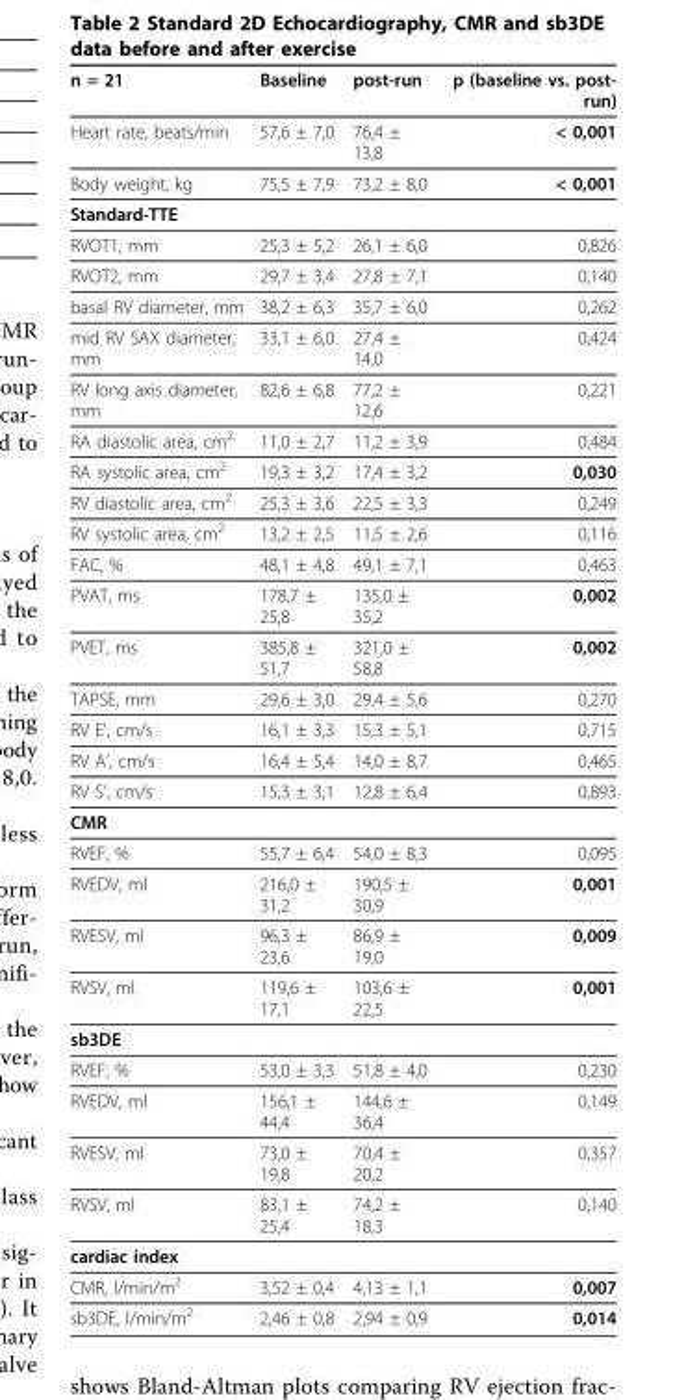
<table><thead><tr><td>n = 21</td><td>Baseline</td><td>post-run</td><td>p (baseline vs. post- run)</td></tr></thead><tbody><tr><td>Heart rate, beats/min</td><td>57,6 ± 7,0</td><td>76,4 ± 13,8</td><td>&lt; 0,001</td></tr><tr><td>Body weight, kg</td><td>75,5 ± 7,9</td><td>73,2 ± 8,0</td><td>&lt; 0,001</td></tr><tr><td colspan="4">Standard-TTE</td></tr><tr><td>RVOT1, mm</td><td>25,3 ± 5,2</td><td>26,1 ± 6,0</td><td>0,826</td></tr><tr><td>RVOT2, mm</td><td>29,7 ± 3,4</td><td>27,8 ± 7,1</td><td>0,140</td></tr><tr><td>basal RV diameter, mm</td><td>38,2 ± 6,3</td><td>35,7 ± 6,0</td><td>0,262</td></tr><tr><td>mid RV SAX diameter, mm</td><td>33,1 ± 6,0</td><td>27,4 ± 14,0</td><td>0,424</td></tr><tr><td>RV long axis diameter, mm</td><td>82,6 ± 6,8</td><td>77,2 ± 12,6</td><td>0,221</td></tr><tr><td>RA diastolic area, cm<sup>2</sup></td><td>11,0 ± 2,7</td><td>11,2 ± 3,9</td><td>0,484</td></tr><tr><td>RA systolic area, cm<sup>2</sup></td><td>19,3 ± 3,2</td><td>17,4 ± 3,2</td><td>0,030</td></tr><tr><td>RV diastolic area, cm<sup>2</sup></td><td>25,3 ± 3,6</td><td>22,5 ± 3,3</td><td>0,249</td></tr><tr><td>RV systolic area, cm<sup>2</sup></td><td>13,2 ± 2,5</td><td>11,5 ± 2,6</td><td>0,116</td></tr><tr><td>FAC, %</td><td>48,1 ± 4,8</td><td>49,1 ± 7,1</td><td>0,463</td></tr><tr><td>PVAT, ms</td><td>178,7 ± 25,8</td><td>135,0 ± 35,2</td><td>0,002</td></tr><tr><td>PVET, ms</td><td>385,8 ± 51,7</td><td>321,0 ± 58,8</td><td>0,002</td></tr><tr><td>TAPSE, mm</td><td>29,6 ± 3,0</td><td>29,4 ± 5,6</td><td>0,270</td></tr><tr><td>RV E’, cm/s</td><td>16,1 ± 3,3</td><td>15,3 ± 5,1</td><td>0,715</td></tr><tr><td>RV A’, cm/s</td><td>16,4 ± 5,4</td><td>14,0 ± 8,7</td><td>0,465</td></tr><tr><td>RV S’, cm/s</td><td>15,3 ± 3,1</td><td>12,8 ± 6,4</td><td>0,893</td></tr><tr><td colspan="4">CMR</td></tr><tr><td>RVEF, %</td><td>55,7 ± 6,4</td><td>54,0 ± 8,3</td><td>0,095</td></tr><tr><td>RVEDV, ml</td><td>216,0 ± 31,2</td><td>190,5 ± 30,9</td><td>0,001</td></tr><tr><td>RVESV, ml</td><td>96,3 ± 23,6</td><td>86,9 ± 19,0</td><td>0,009</td></tr><tr><td>RVSV, ml</td><td>119,6 ± 17,1</td><td>103,6 ± 22,5</td><td>0,001</td></tr><tr><td colspan="4">sb3DE</td></tr><tr><td>RVEF, %</td><td>53,0 ± 3,3</td><td>51,8 ± 4,0</td><td>0,230</td></tr><tr><td>RVEDV, ml</td><td>156,1 ± 44,4</td><td>144,6 ± 36,4</td><td>0,149</td></tr><tr><td>RVESV, ml</td><td>73,0 ± 19,8</td><td>70,4 ± 20,2</td><td>0,357</td></tr><tr><td>RVSV, ml</td><td>83,1 ± 25,4</td><td>74,2 ± 18,3</td><td>0,140</td></tr><tr><td colspan="4">cardiac index</td></tr><tr><td>CMR, l/min/m<sup>2</sup></td><td>3,52 ± 0,4</td><td>4,13 ± 1,1</td><td>0,007</td></tr><tr><td>sb3DE, l/min/m<sup>2</sup></td><td>2,46 ± 0,8</td><td>2,94 ± 0,9</td><td>0,014</td></tr></tbody></table>